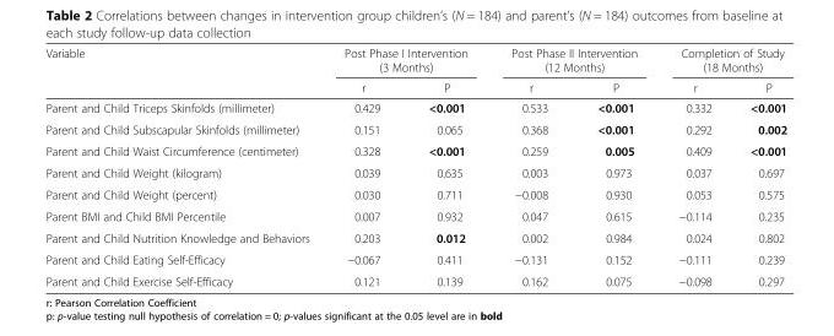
<table><thead><tr><td rowspan="2">Variable</td><td colspan="2">Post Phase I Intervention (3 Months)</td><td colspan="2">Post Phase II Intervention (12 Months)</td><td colspan="2">Completion of Study (18 Months)</td></tr><tr><td>r</td><td>P</td><td>r</td><td>P</td><td>r</td><td>P</td></tr></thead><tbody><tr><td>Parent and Child Triceps Skinfolds (millimeter)</td><td>0.429</td><td>&lt;0.001</td><td>0.533</td><td>&lt;0.001</td><td>0.332</td><td>&lt;0.001</td></tr><tr><td>Parent and Child Subscapular Skinfolds (millimeter)</td><td>0.151</td><td>0.065</td><td>0.368</td><td>&lt;0.001</td><td>0.292</td><td>0.002</td></tr><tr><td>Parent and Child Waist Circumference (centimeter)</td><td>0.328</td><td>&lt;0.001</td><td>0.259</td><td>0.005</td><td>0.409</td><td>&lt;0.001</td></tr><tr><td>Parent and Child Weight (kilogram)</td><td>0.039</td><td>0.635</td><td>0.003</td><td>0.973</td><td>0.037</td><td>0.697</td></tr><tr><td>Parent and Child Weight (percent)</td><td>0.030</td><td>0.711</td><td>−0.008</td><td>0.930</td><td>0.053</td><td>0.575</td></tr><tr><td>Parent BMI and Child BMI Percentile</td><td>0.007</td><td>0.932</td><td>0.047</td><td>0.615</td><td>−0.114</td><td>0.235</td></tr><tr><td>Parent and Child Nutrition Knowledge and Behaviors</td><td>0.203</td><td>0.012</td><td>0.002</td><td>0.984</td><td>0.024</td><td>0.802</td></tr><tr><td>Parent and Child Eating Self-Efficacy</td><td>−0.067</td><td>0.411</td><td>−0.131</td><td>0.152</td><td>−0.111</td><td>0.239</td></tr><tr><td>Parent and Child Exercise Self-Efficacy</td><td>0.121</td><td>0.139</td><td>0.162</td><td>0.075</td><td>−0.098</td><td>0.297</td></tr></tbody></table>